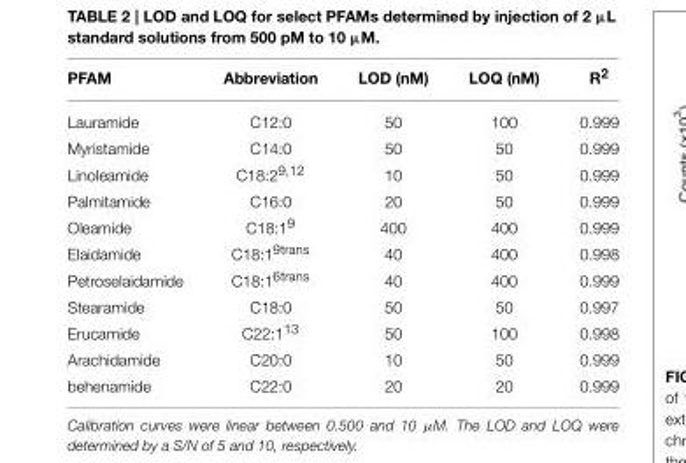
<table><thead><tr><td>PFAM</td><td>Abbreviation</td><td>LOD (nM)</td><td>LOQ (nM)</td><td>R<sup>2</sup></td></tr></thead><tbody><tr><td>Lauramide</td><td>C12:0</td><td>50</td><td>100</td><td>0.999</td></tr><tr><td>Myristamide</td><td>C14:0</td><td>50</td><td>50</td><td>0.999</td></tr><tr><td>Linoleamide</td><td>C18:2<sup>9,12</sup></td><td>10</td><td>50</td><td>0.999</td></tr><tr><td>Palmitamide</td><td>C16:0</td><td>20</td><td>50</td><td>0.999</td></tr><tr><td>Oleamide</td><td>C18:1<sup>9</sup></td><td>400</td><td>400</td><td>0.999</td></tr><tr><td>Elaidamide</td><td>C18:1<sup>9trans</sup></td><td>40</td><td>400</td><td>0.998</td></tr><tr><td>Petroselaidamide</td><td>C18:1<sup>6trans</sup></td><td>40</td><td>400</td><td>0.999</td></tr><tr><td>Stearamide</td><td>C18:0</td><td>50</td><td>50</td><td>0.997</td></tr><tr><td>Erucamide</td><td>C22:1<sup>13</sup></td><td>50</td><td>100</td><td>0.998</td></tr><tr><td>Arachidamide</td><td>C20:0</td><td>10</td><td>50</td><td>0.999</td></tr><tr><td>behenamide</td><td>C22:0</td><td>20</td><td>20</td><td>0.999</td></tr></tbody></table>